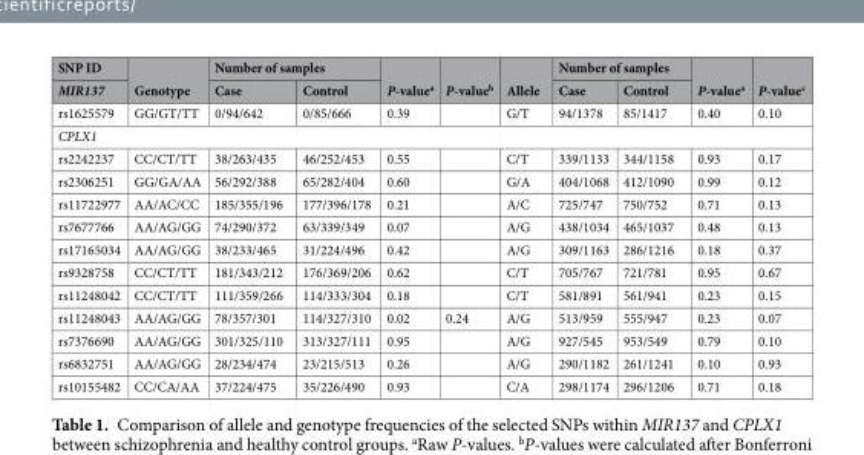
<table><thead><tr><td rowspan="2">SNP ID MIR137</td><td rowspan="2">Genotype</td><td colspan="2">Number of samples</td><td rowspan="2">P-value<sup>a</sup></td><td rowspan="2">P-value<sup>b</sup></td><td rowspan="2">Allele</td><td colspan="2">Number of samples</td><td rowspan="2">P-value<sup>a</sup></td><td rowspan="2">P-value<sup>c</sup></td></tr><tr><td>Case</td><td>Control</td><td>Case</td><td>Control</td></tr></thead><tbody><tr><td>rs1625579</td><td>GG/GT/TT</td><td>0/94/642</td><td>0/85/666</td><td>0.39</td><td></td><td>G/T</td><td>94/1378</td><td>85/1417</td><td>0.40</td><td>0.10</td></tr><tr><td colspan="11">CPLX1</td></tr><tr><td>rs2242237</td><td>CC/CT/TT</td><td>38/263/435</td><td>46/252/453</td><td>0.55</td><td></td><td>C/T</td><td>339/1133</td><td>344/1158</td><td>0.93</td><td>0.17</td></tr><tr><td>rs2306251</td><td>GG/GA/AA</td><td>56/292/388</td><td>65/282/404</td><td>0.60</td><td></td><td>G/A</td><td>404/1068</td><td>412/1090</td><td>0.99</td><td>0.12</td></tr><tr><td>rs11722977</td><td>AA/AC/CC</td><td>185/355/196</td><td>177/396/178</td><td>0.21</td><td></td><td>A/C</td><td>725/747</td><td>750/752</td><td>0.71</td><td>0.13</td></tr><tr><td>rs7677766</td><td>AA/AG/GG</td><td>74/290/372</td><td>63/339/349</td><td>0.07</td><td></td><td>A/G</td><td>438/1034</td><td>465/1037</td><td>0.48</td><td>0.13</td></tr><tr><td>rs17165034</td><td>AA/AG/GG</td><td>38/233/465</td><td>31/224/496</td><td>0.42</td><td></td><td>A/G</td><td>309/1163</td><td>286/1216</td><td>0.18</td><td>0.37</td></tr><tr><td>rs9328758</td><td>CC/CT/TT</td><td>181/343/212</td><td>176/369/206</td><td>0.62</td><td></td><td>C/T</td><td>705/767</td><td>721/781</td><td>0.95</td><td>0.67</td></tr><tr><td>rs11248042</td><td>CC/CT/TT</td><td>111/359/266</td><td>114/333/304</td><td>0.18</td><td></td><td>C/T</td><td>581/891</td><td>561/941</td><td>0.23</td><td>0.15</td></tr><tr><td>rs11248043</td><td>AA/AG/GG</td><td>78/357/301</td><td>114/327/310</td><td>0.02</td><td>0.24</td><td>A/G</td><td>513/959</td><td>555/947</td><td>0.23</td><td>0.07</td></tr><tr><td>rs7376690</td><td>AA/AG/GG</td><td>301/325/110</td><td>313/327/111</td><td>0.95</td><td></td><td>A/G</td><td>927/545</td><td>953/549</td><td>0.79</td><td>0.10</td></tr><tr><td>rs6832751</td><td>AA/AG/GG</td><td>28/234/474</td><td>23/215/513</td><td>0.26</td><td></td><td>A/G</td><td>290/1182</td><td>261/1241</td><td>0.10</td><td>0.93</td></tr><tr><td>rs10155482</td><td>CC/CA/AA</td><td>37/224/475</td><td>35/226/490</td><td>0.93</td><td></td><td>C/A</td><td>298/1174</td><td>296/1206</td><td>0.71</td><td>0.18</td></tr></tbody></table>